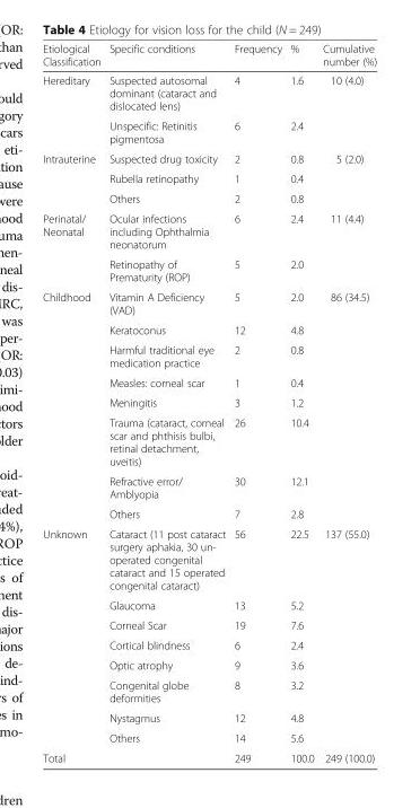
<table><thead><tr><td>Etiological Classification</td><td>Specific conditions</td><td>Frequency</td><td>%</td><td>Cumulative number (%)</td></tr></thead><tbody><tr><td rowspan="2">Hereditary</td><td>Suspected autosomal dominant (cataract and dislocated lens)</td><td>4</td><td>1.6</td><td rowspan="2">10 (4.0)</td></tr><tr><td>Unspecific: Retinitis pigmentosa</td><td>6</td><td>2.4</td></tr><tr><td rowspan="3">Intrauterine</td><td>Suspected drug toxicity</td><td>2</td><td>0.8</td><td rowspan="3">5 (2.0)</td></tr><tr><td>Rubella retinopathy</td><td>1</td><td>0.4</td></tr><tr><td>Others</td><td>2</td><td>0.8</td></tr><tr><td rowspan="2">Perinatal/ Neonatal</td><td>Ocular infections including Ophthalmia neonatorum</td><td>6</td><td>2.4</td><td rowspan="2">11 (4.4)</td></tr><tr><td>Retinopathy of Prematurity (ROP)</td><td>5</td><td>2.0</td></tr><tr><td rowspan="8">Childhood</td><td>Vitamin A Deficiency (VAD)</td><td>5</td><td>2.0</td><td rowspan="8">86 (34.5)</td></tr><tr><td>Keratoconus</td><td>12</td><td>4.8</td></tr><tr><td>Harmful traditional eye medication practice</td><td>2</td><td>0.8</td></tr><tr><td>Measles: corneal scar</td><td>1</td><td>0.4</td></tr><tr><td>Meningitis</td><td>3</td><td>1.2</td></tr><tr><td>Trauma (cataract, corneal scar and phthisis bulbi, retinal detachment, uveitis)</td><td>26</td><td>10.4</td></tr><tr><td>Refractive error/ Amblyopia</td><td>30</td><td>12.1</td></tr><tr><td>Others</td><td>7</td><td>2.8</td></tr><tr><td rowspan="8">Unknown</td><td>Cataract (11 post cataract surgery aphakia, 30 un- operated congenital cataract and 15 operated congenital cataract)</td><td>56</td><td>22.5</td><td rowspan="8">137 (55.0)</td></tr><tr><td>Glaucoma</td><td>13</td><td>5.2</td></tr><tr><td>Corneal Scar</td><td>19</td><td>7.6</td></tr><tr><td>Cortical blindness</td><td>6</td><td>2.4</td></tr><tr><td>Optic atrophy</td><td>9</td><td>3.6</td></tr><tr><td>Congenital globe deformities</td><td>8</td><td>3.2</td></tr><tr><td>Nystagmus</td><td>12</td><td>4.8</td></tr><tr><td>Others</td><td>14</td><td>5.6</td></tr><tr><td colspan="2">Total</td><td>249</td><td>100.0</td><td>249 (100.0)</td></tr></tbody></table>